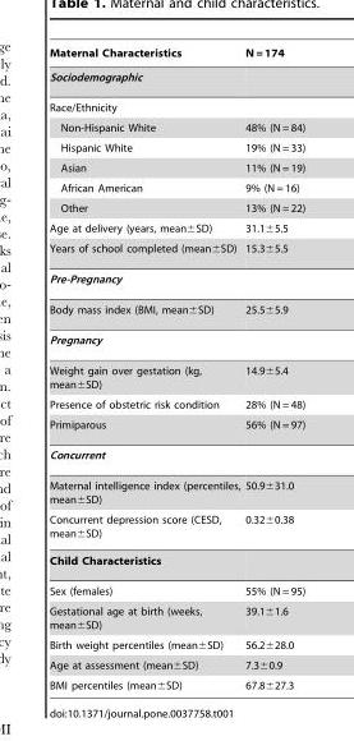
<table><thead><tr><td>Maternal Characteristics</td><td>N = 174</td></tr></thead><tbody><tr><td colspan="2">Sociodemographic</td></tr><tr><td colspan="2">Race/Ethnicity</td></tr><tr><td>Non-Hispanic White</td><td>48% (N = 84)</td></tr><tr><td>Hispanic White</td><td>19% (N = 33)</td></tr><tr><td>Asian</td><td>11% (N = 19)</td></tr><tr><td>African American</td><td>9% (N = 16)</td></tr><tr><td>Other</td><td>13% (N = 22)</td></tr><tr><td>Age at delivery (years, mean±SD)</td><td>31.1±5.5</td></tr><tr><td>Years of school completed (mean±SD)</td><td>15.3±5.5</td></tr><tr><td colspan="2">Pre-Pregnancy</td></tr><tr><td>Body mass index (BMI, mean±SD)</td><td>25.5±5.9</td></tr><tr><td colspan="2">Pregnancy</td></tr><tr><td>Weight gain over gestation (kg, mean±SD)</td><td>14.9±5.4</td></tr><tr><td>Presence of obstetric risk condition</td><td>28% (N = 48)</td></tr><tr><td>Primiparous</td><td>56% (N = 97)</td></tr><tr><td colspan="2">Concurrent</td></tr><tr><td>Maternal intelligence index (percentiles, mean±SD)</td><td>50.9±31.0</td></tr><tr><td>Concurrent depression score (CESD, mean±SD)</td><td>0.32±0.38</td></tr><tr><td colspan="2">Child Characteristics</td></tr><tr><td>Sex (females)</td><td>55% (N = 95)</td></tr><tr><td>Gestational age at birth (weeks, mean±SD)</td><td>39.1±1.6</td></tr><tr><td>Birth weight percentiles (mean±SD)</td><td>56.2±28.0</td></tr><tr><td>Age at assessment (mean±SD)</td><td>7.3±0.9</td></tr><tr><td>BMI percentiles (mean±SD)</td><td>67.8±27.3</td></tr></tbody></table>